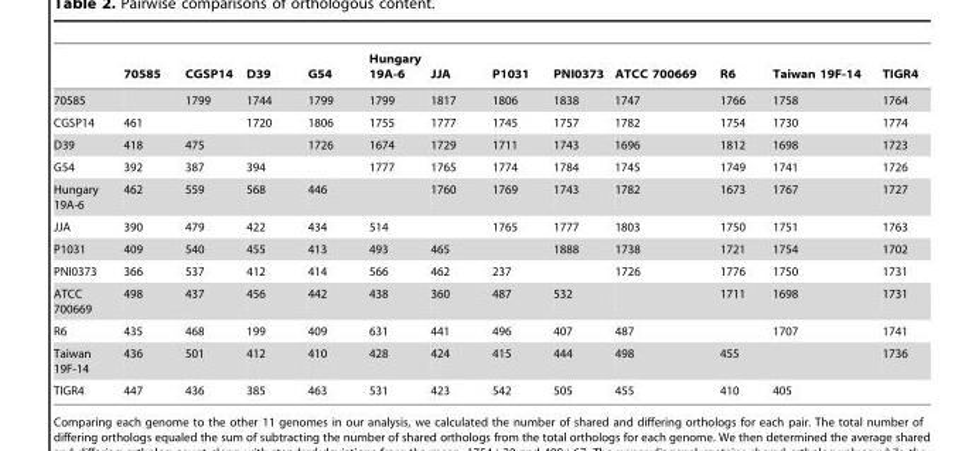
<table><thead><tr><td></td><td>70585</td><td>CGSP14</td><td>D39</td><td>G54</td><td>Hungary 19A-6</td><td>JJA</td><td>P1031</td><td>PNI0373</td><td>ATCC 700669</td><td>R6</td><td>Taiwan 19F-14</td><td>TIGR4</td></tr></thead><tbody><tr><td>70585</td><td></td><td>1799</td><td>1744</td><td>1799</td><td>1799</td><td>1817</td><td>1806</td><td>1838</td><td>1747</td><td>1766</td><td>1758</td><td>1764</td></tr><tr><td>CGSP14</td><td>461</td><td></td><td>1720</td><td>1806</td><td>1755</td><td>1777</td><td>1745</td><td>1757</td><td>1782</td><td>1754</td><td>1730</td><td>1774</td></tr><tr><td>D39</td><td>418</td><td>475</td><td></td><td>1726</td><td>1674</td><td>1729</td><td>1711</td><td>1743</td><td>1696</td><td>1812</td><td>1698</td><td>1723</td></tr><tr><td>G54</td><td>392</td><td>387</td><td>394</td><td></td><td>1777</td><td>1765</td><td>1774</td><td>1784</td><td>1745</td><td>1749</td><td>1741</td><td>1726</td></tr><tr><td>Hungary 19A-6</td><td>462</td><td>559</td><td>568</td><td>446</td><td></td><td>1760</td><td>1769</td><td>1743</td><td>1782</td><td>1673</td><td>1767</td><td>1727</td></tr><tr><td>JJA</td><td>390</td><td>479</td><td>422</td><td>434</td><td>514</td><td></td><td>1765</td><td>1777</td><td>1803</td><td>1750</td><td>1751</td><td>1763</td></tr><tr><td>P1031</td><td>409</td><td>540</td><td>455</td><td>413</td><td>493</td><td>465</td><td></td><td>1888</td><td>1738</td><td>1721</td><td>1754</td><td>1702</td></tr><tr><td>PNI0373</td><td>366</td><td>537</td><td>412</td><td>414</td><td>566</td><td>462</td><td>237</td><td></td><td>1726</td><td>1776</td><td>1750</td><td>1731</td></tr><tr><td>ATCC 700669</td><td>498</td><td>437</td><td>456</td><td>442</td><td>438</td><td>360</td><td>487</td><td>532</td><td></td><td>1711</td><td>1698</td><td>1731</td></tr><tr><td>R6</td><td>435</td><td>468</td><td>199</td><td>409</td><td>631</td><td>441</td><td>496</td><td>407</td><td>487</td><td></td><td>1707</td><td>1741</td></tr><tr><td>Taiwan 19F-14</td><td>436</td><td>501</td><td>412</td><td>410</td><td>428</td><td>424</td><td>415</td><td>444</td><td>498</td><td>455</td><td></td><td>1736</td></tr><tr><td>TIGR4</td><td>447</td><td>436</td><td>385</td><td>463</td><td>531</td><td>423</td><td>542</td><td>505</td><td>455</td><td>410</td><td>405</td><td></td></tr></tbody></table>